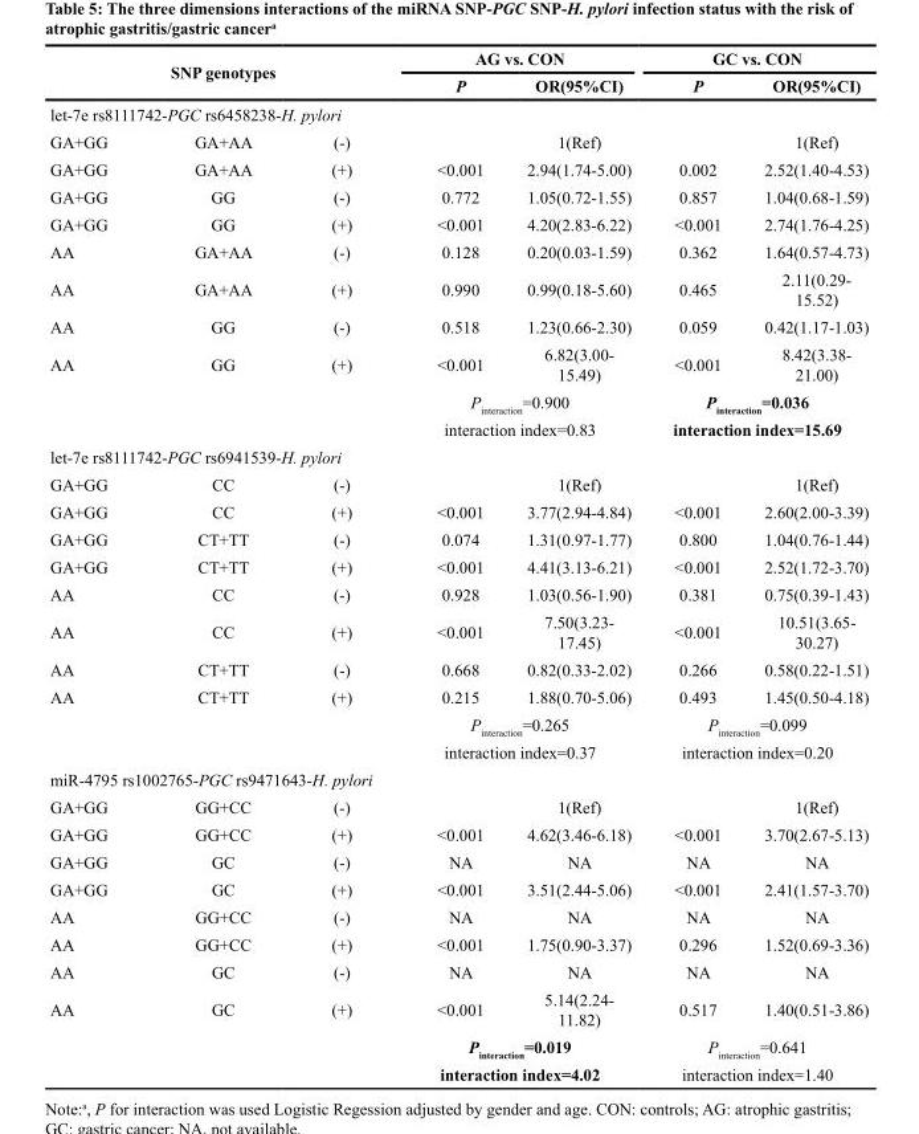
<table><thead><tr><td rowspan="2" colspan="3">SNP genotypes</td><td colspan="2">AG vs. CON</td><td colspan="2">GC vs. CON</td></tr><tr><td>P</td><td>OR(95%CI)</td><td>P</td><td>OR(95%CI)</td></tr><tr><td colspan="7">let-7e rs8111742-PGC rs6458238-H. pylori</td></tr><tr><td>GA+GG</td><td>GA+AA</td><td>(-)</td><td></td><td>1(Ref)</td><td></td><td>1(Ref)</td></tr></thead><tbody><tr><td>GA+GG</td><td>GA+AA</td><td>(+)</td><td>&lt;0.001</td><td>2.94(1.74-5.00)</td><td>0.002</td><td>2.52(1.40-4.53)</td></tr><tr><td>GA+GG</td><td>GG</td><td>(-)</td><td>0.772</td><td>1.05(0.72-1.55)</td><td>0.857</td><td>1.04(0.68-1.59)</td></tr><tr><td>GA+GG</td><td>GG</td><td>(+)</td><td>&lt;0.001</td><td>4.20(2.83-6.22)</td><td>&lt;0.001</td><td>2.74(1.76-4.25)</td></tr><tr><td>AA</td><td>GA+AA</td><td>(-)</td><td>0.128</td><td>0.20(0.03-1.59)</td><td>0.362</td><td>1.64(0.57-4.73)</td></tr><tr><td>AA</td><td>GA+AA</td><td>(+)</td><td>0.990</td><td>0.99(0.18-5.60)</td><td>0.465</td><td>2.11(0.29- 15.52)</td></tr><tr><td>AA</td><td>GG</td><td>(-)</td><td>0.518</td><td>1.23(0.66-2.30)</td><td>0.059</td><td>0.42(1.17-1.03)</td></tr><tr><td rowspan="3">AA</td><td>GG</td><td>(+)</td><td>&lt;0.001</td><td>6.82(3.00- 15.49)</td><td>&lt;0.001</td><td>8.42(3.38- 21.00)</td></tr><tr><td></td><td></td><td colspan="2">P<sub>interaction</sub>=0.900</td><td colspan="2">P<sub>interaction</sub>=0.036</td></tr><tr><td></td><td></td><td colspan="2">interaction index=0.83</td><td colspan="2">interaction index=15.69</td></tr><tr><td colspan="7">let-7e rs8111742-PGC rs6941539-H. pylori</td></tr><tr><td>GA+GG</td><td>CC</td><td>(-)</td><td></td><td>1(Ref)</td><td></td><td>1(Ref)</td></tr><tr><td>GA+GG</td><td>CC</td><td>(+)</td><td>&lt;0.001</td><td>3.77(2.94-4.84)</td><td>&lt;0.001</td><td>2.60(2.00-3.39)</td></tr><tr><td>GA+GG</td><td>CT+TT</td><td>(-)</td><td>0.074</td><td>1.31(0.97-1.77)</td><td>0.800</td><td>1.04(0.76-1.44)</td></tr><tr><td>GA+GG</td><td>CT+TT</td><td>(+)</td><td>&lt;0.001</td><td>4.41(3.13-6.21)</td><td>&lt;0.001</td><td>2.52(1.72-3.70)</td></tr><tr><td>AA</td><td>CC</td><td>(-)</td><td>0.928</td><td>1.03(0.56-1.90)</td><td>0.381</td><td>0.75(0.39-1.43)</td></tr><tr><td>AA</td><td>CC</td><td>(+)</td><td>&lt;0.001</td><td>7.50(3.23- 17.45)</td><td>&lt;0.001</td><td>10.51(3.65- 30.27)</td></tr><tr><td>AA</td><td>CT+TT</td><td>(-)</td><td>0.668</td><td>0.82(0.33-2.02)</td><td>0.266</td><td>0.58(0.22-1.51)</td></tr><tr><td rowspan="3">AA</td><td>CT+TT</td><td>(+)</td><td>0.215</td><td>1.88(0.70-5.06)</td><td>0.493</td><td>1.45(0.50-4.18)</td></tr><tr><td></td><td></td><td colspan="2">P<sub>interaction</sub>=0.265</td><td colspan="2">P<sub>interaction</sub>=0.099</td></tr><tr><td></td><td></td><td colspan="2">interaction index=0.37</td><td colspan="2">interaction index=0.20</td></tr><tr><td colspan="7">miR-4795 rs1002765-PGC rs9471643-H. pylori</td></tr><tr><td>GA+GG</td><td>GG+CC</td><td>(-)</td><td></td><td>1(Ref)</td><td></td><td>1(Ref)</td></tr><tr><td>GA+GG</td><td>GG+CC</td><td>(+)</td><td>&lt;0.001</td><td>4.62(3.46-6.18)</td><td>&lt;0.001</td><td>3.70(2.67-5.13)</td></tr><tr><td>GA+GG</td><td>GC</td><td>(-)</td><td>NA</td><td>NA</td><td>NA</td><td>NA</td></tr><tr><td>GA+GG</td><td>GC</td><td>(+)</td><td>&lt;0.001</td><td>3.51(2.44-5.06)</td><td>&lt;0.001</td><td>2.41(1.57-3.70)</td></tr><tr><td>AA</td><td>GG+CC</td><td>(-)</td><td>NA</td><td>NA</td><td>NA</td><td>NA</td></tr><tr><td>AA</td><td>GG+CC</td><td>(+)</td><td>&lt;0.001</td><td>1.75(0.90-3.37)</td><td>0.296</td><td>1.52(0.69-3.36)</td></tr><tr><td>AA</td><td>GC</td><td>(-)</td><td>NA</td><td>NA</td><td>NA</td><td>NA</td></tr><tr><td rowspan="3">AA</td><td>GC</td><td>(+)</td><td>&lt;0.001</td><td>5.14(2.24- 11.82)</td><td>0.517</td><td>1.40(0.51-3.86)</td></tr><tr><td></td><td></td><td colspan="2">P<sub>interaction</sub>=0.019</td><td colspan="2">P<sub>interaction</sub>=0.641</td></tr><tr><td></td><td></td><td colspan="2">interaction index=4.02</td><td colspan="2">interaction index=1.40</td></tr></tbody></table>